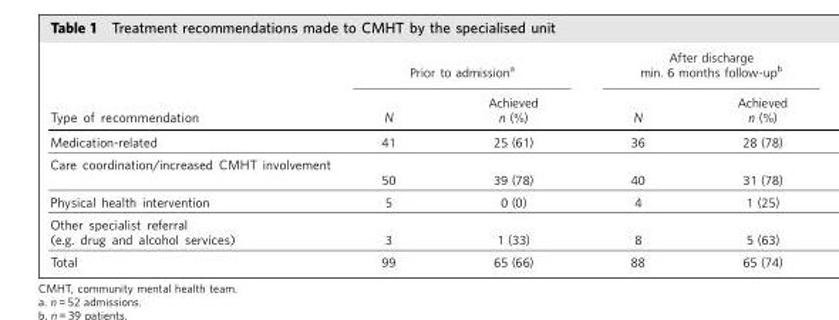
<table><thead><tr><td rowspan="2">Type of recommendation</td><td colspan="2">Prior to admission<sup>a</sup></td><td colspan="2">After discharge min. 6 months follow-up<sup>b</sup></td></tr><tr><td>N</td><td>Achieved n (%)</td><td>N</td><td>Achieved n (%)</td></tr></thead><tbody><tr><td>Medication-related</td><td>41</td><td>25 (61)</td><td>36</td><td>28 (78)</td></tr><tr><td>Care coordination/increased CMHT involvement</td><td>50</td><td>39 (78)</td><td>40</td><td>31 (78)</td></tr><tr><td>Physical health intervention</td><td>5</td><td>0 (0)</td><td>4</td><td>1 (25)</td></tr><tr><td>Other specialist referral (e.g. drug and alcohol services)</td><td>3</td><td>1 (33)</td><td>8</td><td>5 (63)</td></tr><tr><td>Total</td><td>99</td><td>65 (66)</td><td>88</td><td>65 (74)</td></tr></tbody></table>